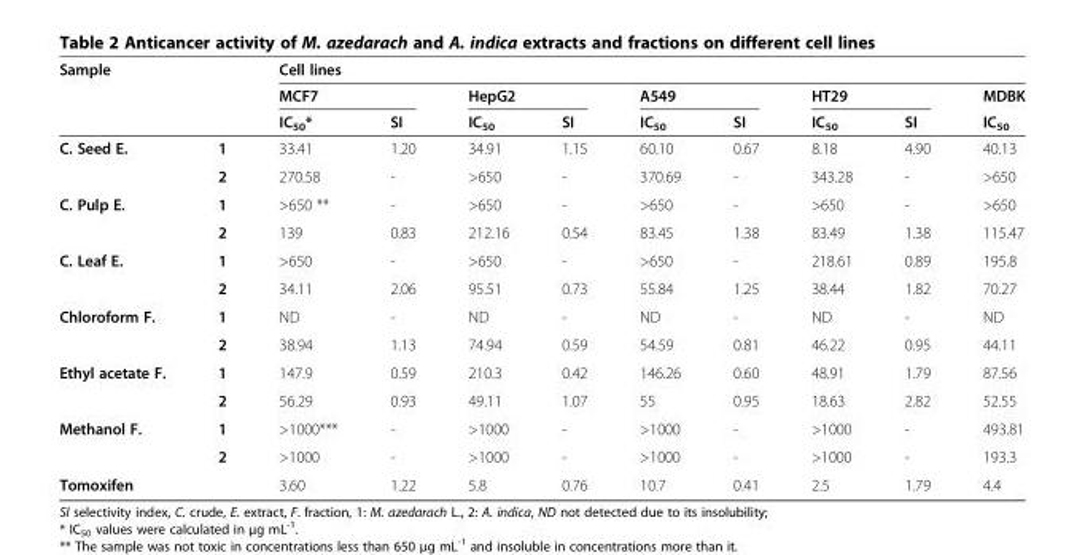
<table><thead><tr><td rowspan="2" colspan="2">Sample</td><td colspan="9">Cell lines</td></tr><tr><td colspan="2">MCF7</td><td colspan="2">HepG2</td><td colspan="2">A549</td><td colspan="2">HT29</td><td rowspan="2">MDBK IC50</td></tr><tr><td></td><td></td><td>IC50*</td><td>SI</td><td>IC50</td><td>SI</td><td>IC50</td><td>SI</td><td>IC50</td><td>SI</td></tr></thead><tbody><tr><td rowspan="2">C. Seed E.</td><td>1</td><td>33.41</td><td>1.20</td><td>34.91</td><td>1.15</td><td>60.10</td><td>0.67</td><td>8.18</td><td>4.90</td><td>40.13</td></tr><tr><td>2</td><td>270.58</td><td>-</td><td>&gt;650</td><td>-</td><td>370.69</td><td>-</td><td>343.28</td><td>-</td><td>&gt;650</td></tr><tr><td rowspan="2">C. Pulp E.</td><td>1</td><td>&gt;650 **</td><td>-</td><td>&gt;650</td><td>-</td><td>&gt;650</td><td>-</td><td>&gt;650</td><td>-</td><td>&gt;650</td></tr><tr><td>2</td><td>139</td><td>0.83</td><td>212.16</td><td>0.54</td><td>83.45</td><td>1.38</td><td>83.49</td><td>1.38</td><td>115.47</td></tr><tr><td rowspan="2">C. Leaf E.</td><td>1</td><td>&gt;650</td><td>-</td><td>&gt;650</td><td>-</td><td>&gt;650</td><td>-</td><td>218.61</td><td>0.89</td><td>195.8</td></tr><tr><td>2</td><td>34.11</td><td>2.06</td><td>95.51</td><td>0.73</td><td>55.84</td><td>1.25</td><td>38.44</td><td>1.82</td><td>70.27</td></tr><tr><td rowspan="2">Chloroform F.</td><td>1</td><td>ND</td><td>-</td><td>ND</td><td>-</td><td>ND</td><td>-</td><td>ND</td><td>-</td><td>ND</td></tr><tr><td>2</td><td>38.94</td><td>1.13</td><td>74.94</td><td>0.59</td><td>54.59</td><td>0.81</td><td>46.22</td><td>0.95</td><td>44.11</td></tr><tr><td rowspan="2">Ethyl acetate F.</td><td>1</td><td>147.9</td><td>0.59</td><td>210.3</td><td>0.42</td><td>146.26</td><td>0.60</td><td>48.91</td><td>1.79</td><td>87.56</td></tr><tr><td>2</td><td>56.29</td><td>0.93</td><td>49.11</td><td>1.07</td><td>55</td><td>0.95</td><td>18.63</td><td>2.82</td><td>52.55</td></tr><tr><td rowspan="2">Methanol F.</td><td>1</td><td>&gt;1000***</td><td>-</td><td>&gt;1000</td><td>-</td><td>&gt;1000</td><td>-</td><td>&gt;1000</td><td>-</td><td>493.81</td></tr><tr><td>2</td><td>&gt;1000</td><td>-</td><td>&gt;1000</td><td>-</td><td>&gt;1000</td><td>-</td><td>&gt;1000</td><td>-</td><td>193.3</td></tr><tr><td>Tomoxifen</td><td></td><td>3.60</td><td>1.22</td><td>5.8</td><td>0.76</td><td>10.7</td><td>0.41</td><td>2.5</td><td>1.79</td><td>4.4</td></tr></tbody></table>